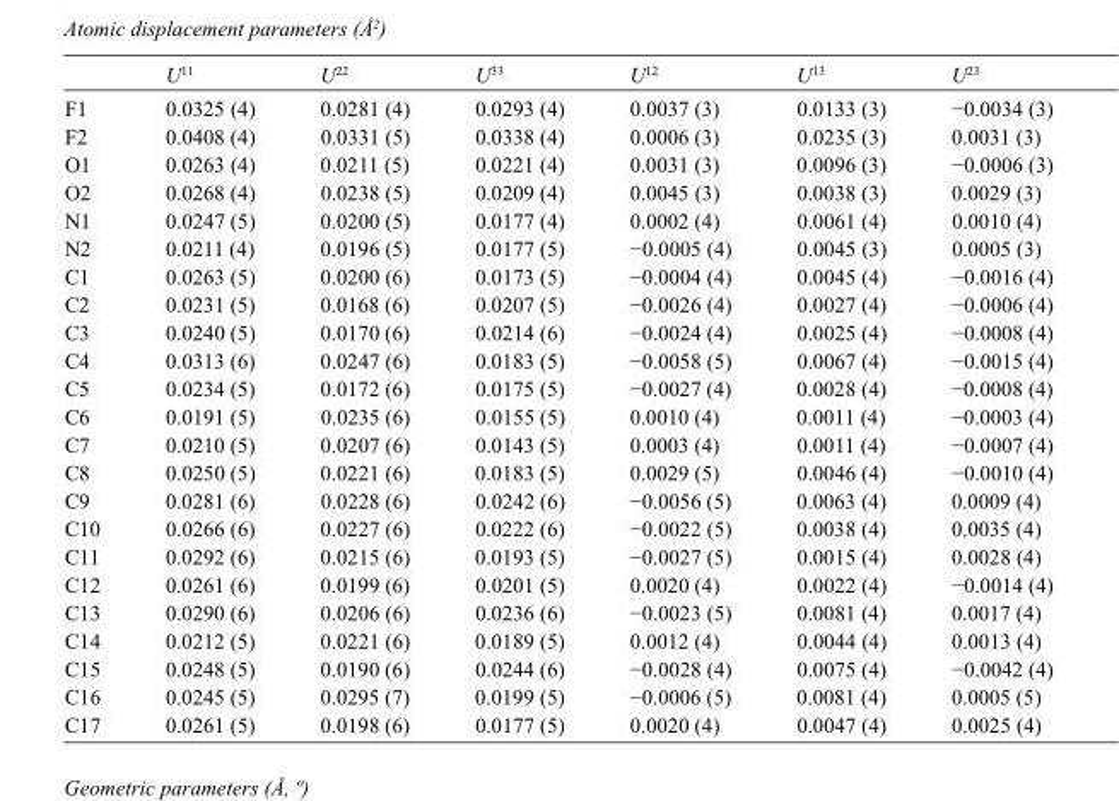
<table><thead><tr><td></td><td>U<sup>11</sup></td><td>U<sup>22</sup></td><td>U<sup>33</sup></td><td>U<sup>12</sup></td><td>U<sup>13</sup></td><td>U<sup>23</sup></td></tr></thead><tbody><tr><td>F1</td><td>0.0325 (4)</td><td>0.0281 (4)</td><td>0.0293 (4)</td><td>0.0037 (3)</td><td>0.0133 (3)</td><td>−0.0034 (3)</td></tr><tr><td>F2</td><td>0.0408 (4)</td><td>0.0331 (5)</td><td>0.0338 (4)</td><td>0.0006 (3)</td><td>0.0235 (3)</td><td>0.0031 (3)</td></tr><tr><td>O1</td><td>0.0263 (4)</td><td>0.0211 (5)</td><td>0.0221 (4)</td><td>0.0031 (3)</td><td>0.0096 (3)</td><td>−0.0006 (3)</td></tr><tr><td>O2</td><td>0.0268 (4)</td><td>0.0238 (5)</td><td>0.0209 (4)</td><td>0.0045 (3)</td><td>0.0038 (3)</td><td>0.0029 (3)</td></tr><tr><td>N1</td><td>0.0247 (5)</td><td>0.0200 (5)</td><td>0.0177 (4)</td><td>0.0002 (4)</td><td>0.0061 (4)</td><td>0.0010 (4)</td></tr><tr><td>N2</td><td>0.0211 (4)</td><td>0.0196 (5)</td><td>0.0177 (5)</td><td>−0.0005 (4)</td><td>0.0045 (3)</td><td>0.0005 (3)</td></tr><tr><td>C1</td><td>0.0263 (5)</td><td>0.0200 (6)</td><td>0.0173 (5)</td><td>−0.0004 (4)</td><td>0.0045 (4)</td><td>−0.0016 (4)</td></tr><tr><td>C2</td><td>0.0231 (5)</td><td>0.0168 (6)</td><td>0.0207 (5)</td><td>−0.0026 (4)</td><td>0.0027 (4)</td><td>−0.0006 (4)</td></tr><tr><td>C3</td><td>0.0240 (5)</td><td>0.0170 (6)</td><td>0.0214 (6)</td><td>−0.0024 (4)</td><td>0.0025 (4)</td><td>−0.0008 (4)</td></tr><tr><td>C4</td><td>0.0313 (6)</td><td>0.0247 (6)</td><td>0.0183 (5)</td><td>−0.0058 (5)</td><td>0.0067 (4)</td><td>−0.0015 (4)</td></tr><tr><td>C5</td><td>0.0234 (5)</td><td>0.0172 (6)</td><td>0.0175 (5)</td><td>−0.0027 (4)</td><td>0.0028 (4)</td><td>−0.0008 (4)</td></tr><tr><td>C6</td><td>0.0191 (5)</td><td>0.0235 (6)</td><td>0.0155 (5)</td><td>0.0010 (4)</td><td>0.0011 (4)</td><td>−0.0003 (4)</td></tr><tr><td>C7</td><td>0.0210 (5)</td><td>0.0207 (6)</td><td>0.0143 (5)</td><td>0.0003 (4)</td><td>0.0011 (4)</td><td>−0.0007 (4)</td></tr><tr><td>C8</td><td>0.0250 (5)</td><td>0.0221 (6)</td><td>0.0183 (5)</td><td>0.0029 (5)</td><td>0.0046 (4)</td><td>−0.0010 (4)</td></tr><tr><td>C9</td><td>0.0281 (6)</td><td>0.0228 (6)</td><td>0.0242 (6)</td><td>−0.0056 (5)</td><td>0.0063 (4)</td><td>0.0009 (4)</td></tr><tr><td>C10</td><td>0.0266 (6)</td><td>0.0227 (6)</td><td>0.0222 (6)</td><td>−0.0022 (5)</td><td>0.0038 (4)</td><td>0.0035 (4)</td></tr><tr><td>C11</td><td>0.0292 (6)</td><td>0.0215 (6)</td><td>0.0193 (5)</td><td>−0.0027 (5)</td><td>0.0015 (4)</td><td>0.0028 (4)</td></tr><tr><td>C12</td><td>0.0261 (6)</td><td>0.0199 (6)</td><td>0.0201 (5)</td><td>0.0020 (4)</td><td>0.0022 (4)</td><td>−0.0014 (4)</td></tr><tr><td>C13</td><td>0.0290 (6)</td><td>0.0206 (6)</td><td>0.0236 (6)</td><td>−0.0023 (5)</td><td>0.0081 (4)</td><td>0.0017 (4)</td></tr><tr><td>C14</td><td>0.0212 (5)</td><td>0.0221 (6)</td><td>0.0189 (5)</td><td>0.0012 (4)</td><td>0.0044 (4)</td><td>0.0013 (4)</td></tr><tr><td>C15</td><td>0.0248 (5)</td><td>0.0190 (6)</td><td>0.0244 (6)</td><td>−0.0028 (4)</td><td>0.0075 (4)</td><td>−0.0042 (4)</td></tr><tr><td>C16</td><td>0.0245 (5)</td><td>0.0295 (7)</td><td>0.0199 (5)</td><td>−0.0006 (5)</td><td>0.0081 (4)</td><td>0.0005 (5)</td></tr><tr><td>C17</td><td>0.0261 (5)</td><td>0.0198 (6)</td><td>0.0177 (5)</td><td>0.0020 (4)</td><td>0.0047 (4)</td><td>0.0025 (4)</td></tr></tbody></table>